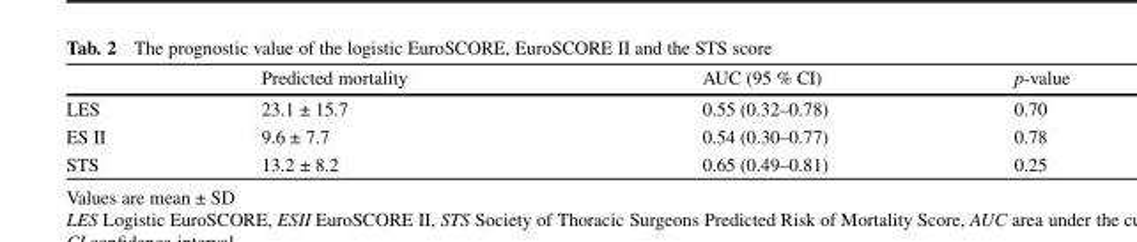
<table><thead><tr><td></td><td>Predicted mortality</td><td>AUC (95 % CI)</td><td>p-value</td></tr></thead><tbody><tr><td>LES</td><td>23.1 ± 15.7</td><td>0.55 (0.32–0.78)</td><td>0.70</td></tr><tr><td>ES II</td><td>9.6 ± 7.7</td><td>0.54 (0.30–0.77)</td><td>0.78</td></tr><tr><td>STS</td><td>13.2 ± 8.2</td><td>0.65 (0.49–0.81)</td><td>0.25</td></tr></tbody></table>